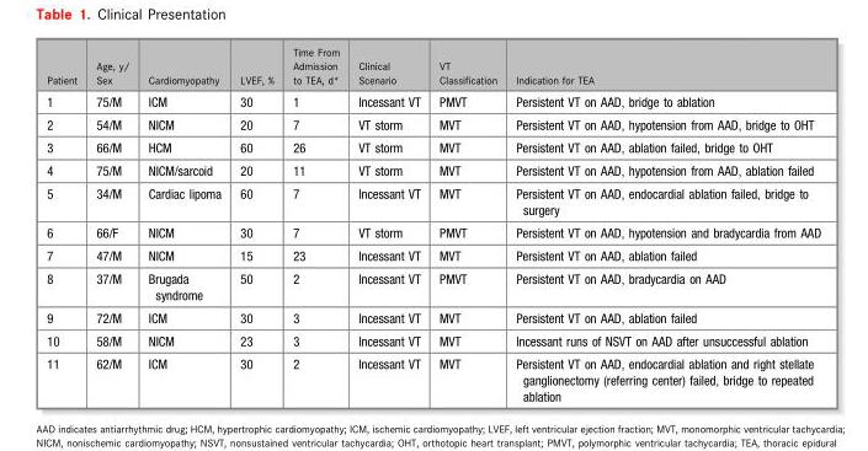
<table><thead><tr><td>Patient</td><td>Age, y/ Sex</td><td>Cardiomyopathy</td><td>LVEF, %</td><td>Time From Admission to TEA, d*</td><td>Clinical Scenario</td><td>VT Classification</td><td>Indication for TEA</td></tr></thead><tbody><tr><td>1</td><td>75/M</td><td>ICM</td><td>30</td><td>1</td><td>Incessant VT</td><td>PMVT</td><td>Persistent VT on AAD, bridge to ablation</td></tr><tr><td>2</td><td>54/M</td><td>NICM</td><td>20</td><td>7</td><td>VT storm</td><td>MVT</td><td>Persistent VT on AAD, hypotension from AAD, bridge to OHT</td></tr><tr><td>3</td><td>66/M</td><td>HCM</td><td>60</td><td>26</td><td>VT storm</td><td>MVT</td><td>Persistent VT on AAD, ablation failed, bridge to OHT</td></tr><tr><td>4</td><td>75/M</td><td>NICM/sarcoid</td><td>20</td><td>11</td><td>VT storm</td><td>MVT</td><td>Persistent VT on AAD, hypotension from AAD, ablation failed</td></tr><tr><td>5</td><td>34/M</td><td>Cardiac lipoma</td><td>60</td><td>7</td><td>Incessant VT</td><td>MVT</td><td>Persistent VT on AAD, endocardial ablation failed, bridge to surgery</td></tr><tr><td>6</td><td>66/F</td><td>NICM</td><td>30</td><td>7</td><td>VT storm</td><td>PMVT</td><td>Persistent VT on AAD, hypotension and bradycardia from AAD</td></tr><tr><td>7</td><td>47/M</td><td>NICM</td><td>15</td><td>23</td><td>Incessant VT</td><td>MVT</td><td>Persistent VT on AAD, ablation failed</td></tr><tr><td>8</td><td>37/M</td><td>Brugada syndrome</td><td>50</td><td>2</td><td>Incessant VT</td><td>PMVT</td><td>Persistent VT on AAD, bradycardia on AAD</td></tr><tr><td>9</td><td>72/M</td><td>ICM</td><td>30</td><td>3</td><td>Incessant VT</td><td>MVT</td><td>Persistent VT on AAD, ablation failed</td></tr><tr><td>10</td><td>58/M</td><td>NICM</td><td>23</td><td>3</td><td>Incessant VT</td><td>MVT</td><td>Incessant runs of NSVT on AAD after unsuccessful ablation</td></tr><tr><td>11</td><td>62/M</td><td>ICM</td><td>30</td><td>2</td><td>Incessant VT</td><td>MVT</td><td>Persistent VT on AAD, endocardial ablation and right stellate ganglionectomy (referring center) failed, bridge to repeated ablation</td></tr></tbody></table>